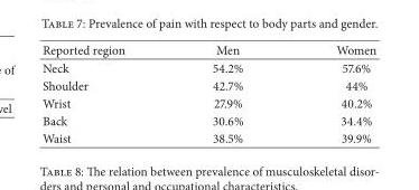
<table><thead><tr><td>Reported region</td><td>Men</td><td>Women</td></tr></thead><tbody><tr><td>Neck</td><td>54.2%</td><td>57.6%</td></tr><tr><td>Shoulder</td><td>42.7%</td><td>44%</td></tr><tr><td>Wrist</td><td>27.9%</td><td>40.2%</td></tr><tr><td>Back</td><td>30.6%</td><td>34.4%</td></tr><tr><td>Waist</td><td>38.5%</td><td>39.9%</td></tr></tbody></table>